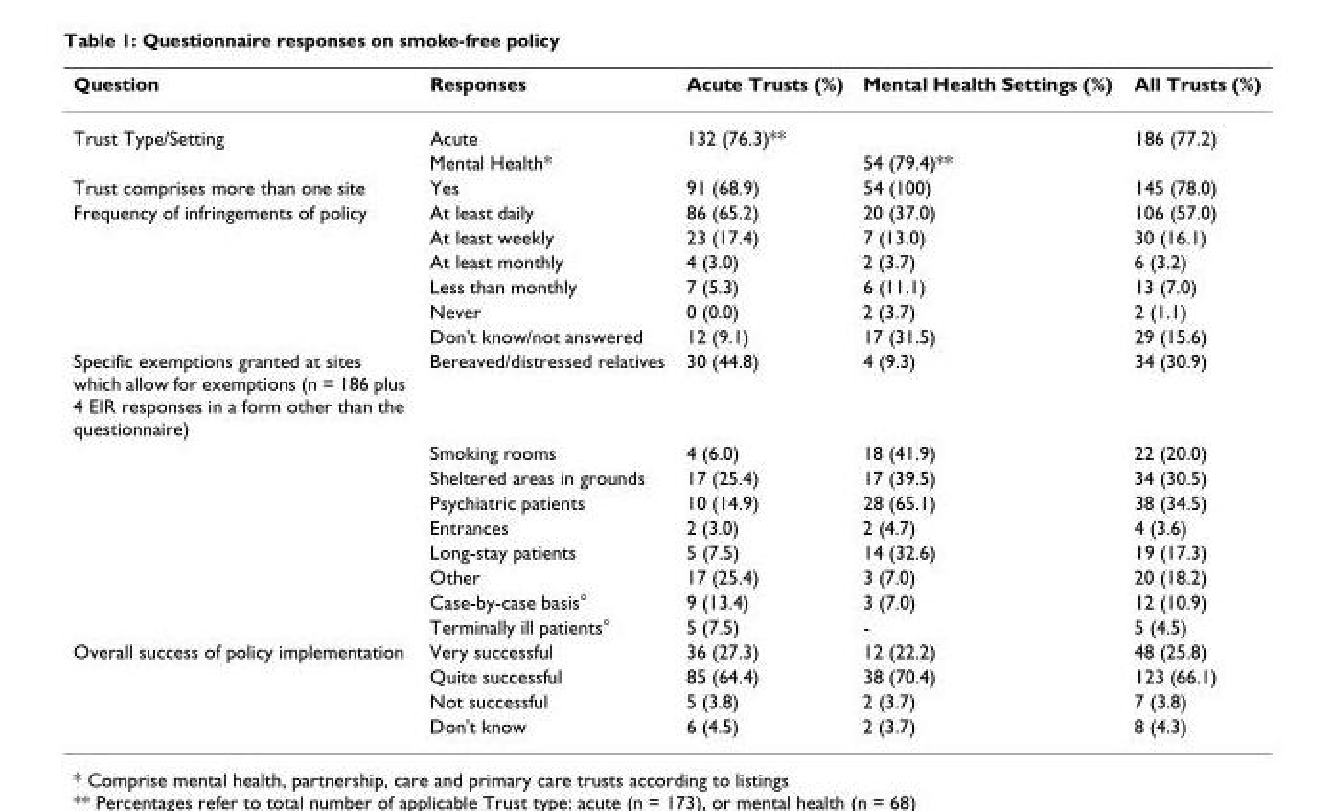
<table><thead><tr><td>Question</td><td>Responses</td><td>Acute Trusts (%)</td><td>Mental Health Settings (%)</td><td>All Trusts (%)</td></tr></thead><tbody><tr><td rowspan="2">Trust Type/Setting</td><td>Acute</td><td>132 (76.3)**</td><td></td><td>186 (77.2)</td></tr><tr><td>Mental Health*</td><td></td><td>54 (79.4)**</td><td></td></tr><tr><td>Trust comprises more than one site</td><td>Yes</td><td>91 (68.9)</td><td>54 (100)</td><td>145 (78.0)</td></tr><tr><td rowspan="6">Frequency of infringements of policy</td><td>At least daily</td><td>86 (65.2)</td><td>20 (37.0)</td><td>106 (57.0)</td></tr><tr><td>At least weekly</td><td>23 (17.4)</td><td>7 (13.0)</td><td>30 (16.1)</td></tr><tr><td>At least monthly</td><td>4 (3.0)</td><td>2 (3.7)</td><td>6 (3.2)</td></tr><tr><td>Less than monthly</td><td>7 (5.3)</td><td>6 (11.1)</td><td>13 (7.0)</td></tr><tr><td>Never</td><td>0 (0.0)</td><td>2 (3.7)</td><td>2 (1.1)</td></tr><tr><td>Don&#x27;t know/not answered</td><td>12 (9.1)</td><td>17 (31.5)</td><td>29 (15.6)</td></tr><tr><td rowspan="9">Specific exemptions granted at sites which allow for exemptions (n = 186 plus 4 EIR responses in a form other than the questionnaire)</td><td>Bereaved/distressed relatives</td><td>30 (44.8)</td><td>4 (9.3)</td><td>34 (30.9)</td></tr><tr><td>Smoking rooms</td><td>4 (6.0)</td><td>18 (41.9)</td><td>22 (20.0)</td></tr><tr><td>Sheltered areas in grounds</td><td>17 (25.4)</td><td>17 (39.5)</td><td>34 (30.5)</td></tr><tr><td>Psychiatric patients</td><td>10 (14.9)</td><td>28 (65.1)</td><td>38 (34.5)</td></tr><tr><td>Entrances</td><td>2 (3.0)</td><td>2 (4.7)</td><td>4 (3.6)</td></tr><tr><td>Long-stay patients</td><td>5 (7.5)</td><td>14 (32.6)</td><td>19 (17.3)</td></tr><tr><td>Other</td><td>17 (25.4)</td><td>3 (7.0)</td><td>20 (18.2)</td></tr><tr><td>Case-by-case basis°</td><td>9 (13.4)</td><td>3 (7.0)</td><td>12 (10.9)</td></tr><tr><td>Terminally ill patients°</td><td>5 (7.5)</td><td>-</td><td>5 (4.5)</td></tr><tr><td rowspan="4">Overall success of policy implementation</td><td>Very successful</td><td>36 (27.3)</td><td>12 (22.2)</td><td>48 (25.8)</td></tr><tr><td>Quite successful</td><td>85 (64.4)</td><td>38 (70.4)</td><td>123 (66.1)</td></tr><tr><td>Not successful</td><td>5 (3.8)</td><td>2 (3.7)</td><td>7 (3.8)</td></tr><tr><td>Don&#x27;t know</td><td>6 (4.5)</td><td>2 (3.7)</td><td>8 (4.3)</td></tr></tbody></table>